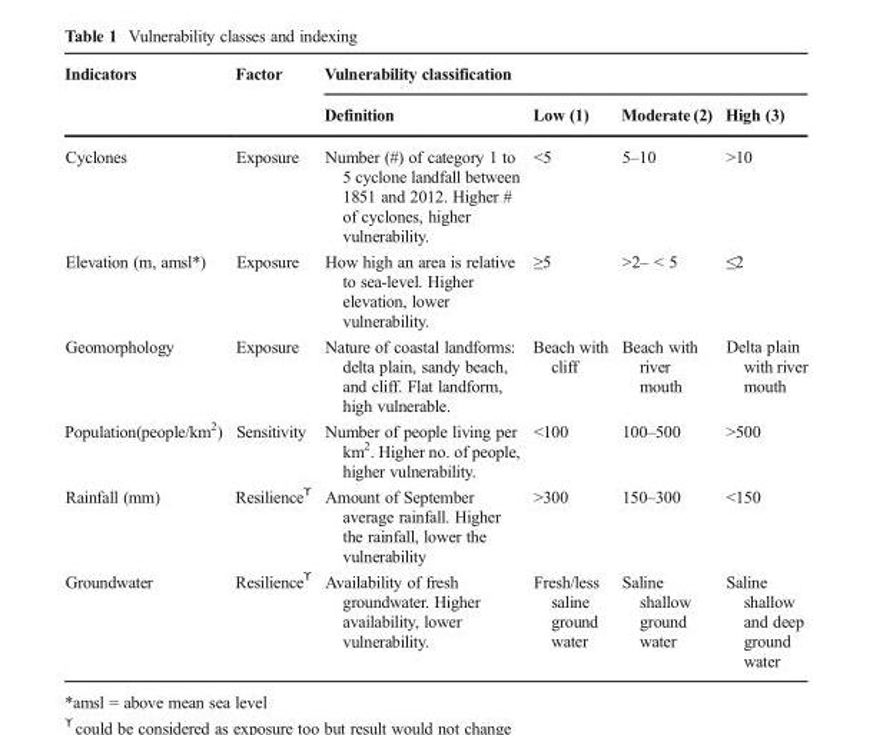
<table><thead><tr><td rowspan="2">Indicators</td><td rowspan="2">Factor</td><td colspan="4">Vulnerability classification</td></tr><tr><td>Definition</td><td>Low (1)</td><td>Moderate (2)</td><td>High (3)</td></tr></thead><tbody><tr><td>Cyclones</td><td>Exposure</td><td>Number (#) of category 1 to 5 cyclone landfall between 1851 and 2012. Higher # of cyclones, higher vulnerability.</td><td>&lt;5</td><td>5–10</td><td>&gt;10</td></tr><tr><td>Elevation (m, amsl*)</td><td>Exposure</td><td>How high an area is relative to sea-level. Higher elevation, lower vulnerability.</td><td>≥5</td><td>&gt;2– &lt; 5</td><td>≤2</td></tr><tr><td>Geomorphology</td><td>Exposure</td><td>Nature of coastal landforms: delta plain, sandy beach, and cliff. Flat landform, high vulnerable.</td><td>Beach with cliff</td><td>Beach with river mouth</td><td>Delta plain with river mouth</td></tr><tr><td>Population(people/km<sup>2</sup>)</td><td>Sensitivity</td><td>Number of people living per km<sup>2</sup>. Higher no. of people, higher vulnerability.</td><td>&lt;100</td><td>100–500</td><td>&gt;500</td></tr><tr><td>Rainfall (mm)</td><td>Resilience<sup>ϒ</sup></td><td>Amount of September average rainfall. Higher the rainfall, lower the vulnerability</td><td>&gt;300</td><td>150–300</td><td>&lt;150</td></tr><tr><td>Groundwater</td><td>Resilience<sup>ϒ</sup></td><td>Availability of fresh groundwater. Higher availability, lower vulnerability.</td><td>Fresh/less saline ground water</td><td>Saline shallow ground water</td><td>Saline shallow and deep ground water</td></tr></tbody></table>